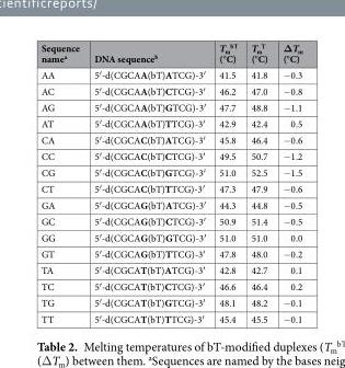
<table><thead><tr><td>Sequence name<sup>a</sup></td><td>DNA sequence<sup>b</sup></td><td>T<sub>m</sub> <sup>bT</sup> (°C)</td><td>T<sub>m</sub> <sup>T</sup> (°C)</td><td>ΔT<sub>m</sub> (°C)</td></tr></thead><tbody><tr><td>AA</td><td>5′-d(CGCAA(bT)ATCG)-3′</td><td>41.5</td><td>41.8</td><td>−0.3</td></tr><tr><td>AC</td><td>5′-d(CGCAA(bT)CTCG)-3′</td><td>46.2</td><td>47.0</td><td>−0.8</td></tr><tr><td>AG</td><td>5′-d(CGCAA(bT)GTCG)-3′</td><td>47.7</td><td>48.8</td><td>−1.1</td></tr><tr><td>AT</td><td>5′-d(CGCAA(bT)TTCG)-3′</td><td>42.9</td><td>42.4</td><td>0.5</td></tr><tr><td>CA</td><td>5′-d(CGCAC(bT)ATCG)-3′</td><td>45.8</td><td>46.4</td><td>−0.6</td></tr><tr><td>CC</td><td>5′-d(CGCAC(bT)CTCG)-3′</td><td>49.5</td><td>50.7</td><td>−1.2</td></tr><tr><td>CG</td><td>5′-d(CGCAC(bT)GTCG)-3′</td><td>51.0</td><td>52.5</td><td>−1.5</td></tr><tr><td>CT</td><td>5′-d(CGCAC(bT)TTCG)-3′</td><td>47.3</td><td>47.9</td><td>−0.6</td></tr><tr><td>GA</td><td>5′-d(CGCAG(bT)ATCG)-3′</td><td>44.3</td><td>44.8</td><td>−0.5</td></tr><tr><td>GC</td><td>5′-d(CGCAG(bT)CTCG)-3′</td><td>50.9</td><td>51.4</td><td>−0.5</td></tr><tr><td>GG</td><td>5′-d(CGCAG(bT)GTCG)-3′</td><td>51.0</td><td>51.0</td><td>0.0</td></tr><tr><td>GT</td><td>5′-d(CGCAG(bT)TTCG)-3′</td><td>47.8</td><td>48.0</td><td>−0.2</td></tr><tr><td>TA</td><td>5′-d(CGCAT(bT)ATCG)-3′</td><td>42.8</td><td>42.7</td><td>0.1</td></tr><tr><td>TC</td><td>5′-d(CGCAT(bT)CTCG)-3′</td><td>46.6</td><td>46.4</td><td>0.2</td></tr><tr><td>TG</td><td>5′-d(CGCAT(bT)GTCG)-3′</td><td>48.1</td><td>48.2</td><td>−0.1</td></tr><tr><td>TT</td><td>5′-d(CGCAT(bT)TTCG)-3′</td><td>45.4</td><td>45.5</td><td>−0.1</td></tr></tbody></table>